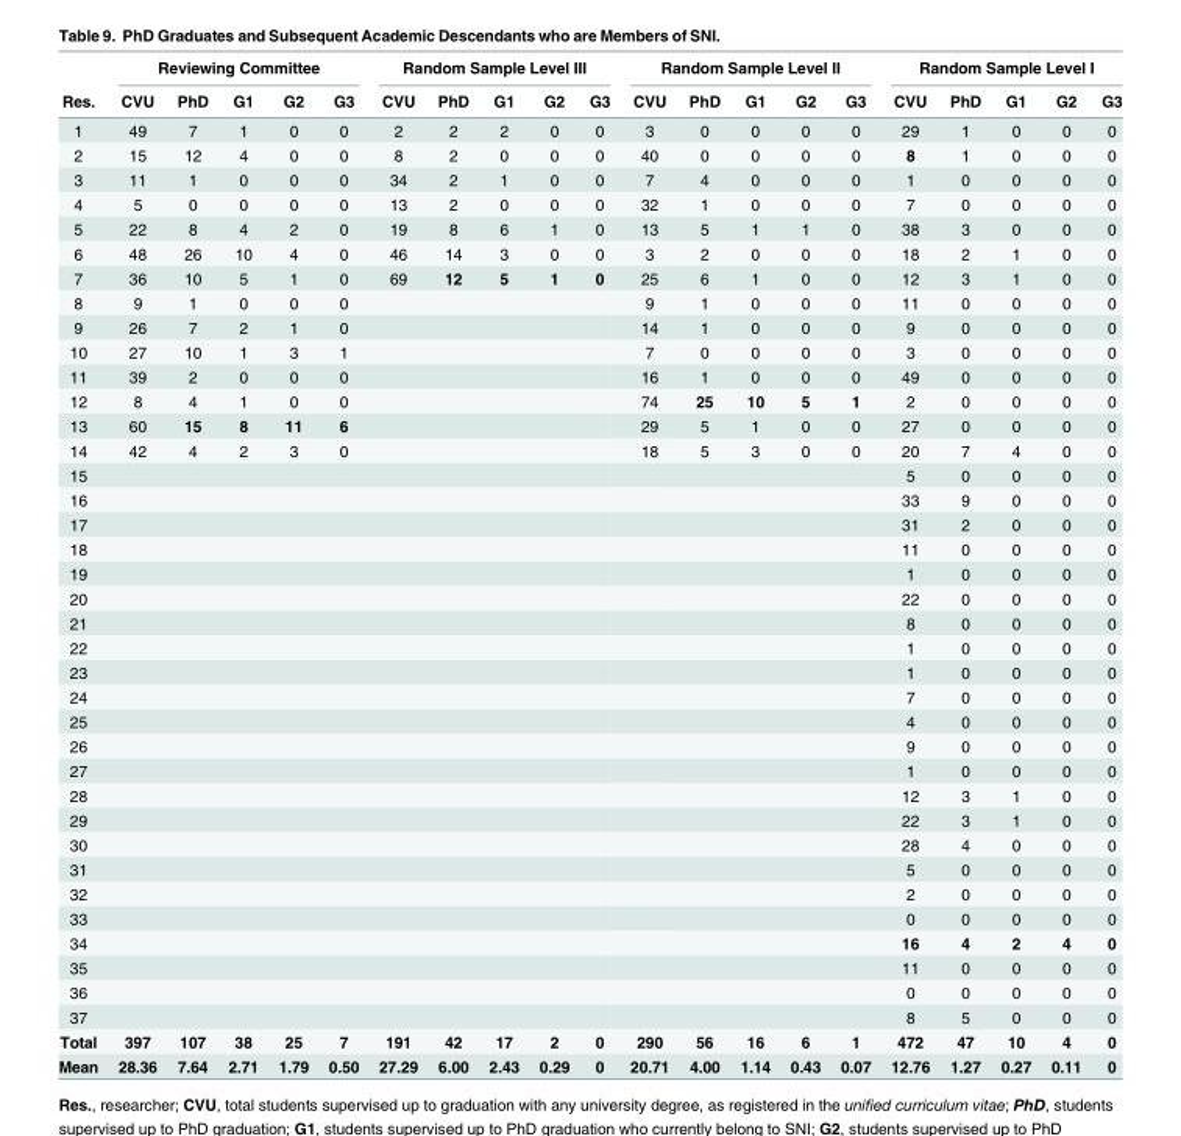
<table><thead><tr><td rowspan="2">Res.</td><td colspan="5">Reviewing Committee</td><td colspan="5">Random Sample Level III</td><td colspan="5">Random Sample Level II</td><td colspan="5">Random Sample Level I</td></tr><tr><td>CVU</td><td>PhD</td><td>G1</td><td>G2</td><td>G3</td><td>CVU</td><td>PhD</td><td>G1</td><td>G2</td><td>G3</td><td>CVU</td><td>PhD</td><td>G1</td><td>G2</td><td>G3</td><td>CVU</td><td>PhD</td><td>G1</td><td>G2</td><td>G3</td></tr></thead><tbody><tr><td>1</td><td>49</td><td>7</td><td>1</td><td>0</td><td>0</td><td>2</td><td>2</td><td>2</td><td>0</td><td>0</td><td>3</td><td>0</td><td>0</td><td>0</td><td>0</td><td>29</td><td>1</td><td>0</td><td>0</td><td>0</td></tr><tr><td>2</td><td>15</td><td>12</td><td>4</td><td>0</td><td>0</td><td>8</td><td>2</td><td>0</td><td>0</td><td>0</td><td>40</td><td>0</td><td>0</td><td>0</td><td>0</td><td>8</td><td>1</td><td>0</td><td>0</td><td>0</td></tr><tr><td>3</td><td>11</td><td>1</td><td>0</td><td>0</td><td>0</td><td>34</td><td>2</td><td>1</td><td>0</td><td>0</td><td>7</td><td>4</td><td>0</td><td>0</td><td>0</td><td>1</td><td>0</td><td>0</td><td>0</td><td>0</td></tr><tr><td>4</td><td>5</td><td>0</td><td>0</td><td>0</td><td>0</td><td>13</td><td>2</td><td>0</td><td>0</td><td>0</td><td>32</td><td>1</td><td>0</td><td>0</td><td>0</td><td>7</td><td>0</td><td>0</td><td>0</td><td>0</td></tr><tr><td>5</td><td>22</td><td>8</td><td>4</td><td>2</td><td>0</td><td>19</td><td>8</td><td>6</td><td>1</td><td>0</td><td>13</td><td>5</td><td>1</td><td>1</td><td>0</td><td>38</td><td>3</td><td>0</td><td>0</td><td>0</td></tr><tr><td>6</td><td>48</td><td>26</td><td>10</td><td>4</td><td>0</td><td>46</td><td>14</td><td>3</td><td>0</td><td>0</td><td>3</td><td>2</td><td>0</td><td>0</td><td>0</td><td>18</td><td>2</td><td>1</td><td>0</td><td>0</td></tr><tr><td>7</td><td>36</td><td>10</td><td>5</td><td>1</td><td>0</td><td>69</td><td>12</td><td>5</td><td>1</td><td>0</td><td>25</td><td>6</td><td>1</td><td>0</td><td>0</td><td>12</td><td>3</td><td>1</td><td>0</td><td>0</td></tr><tr><td>8</td><td>9</td><td>1</td><td>0</td><td>0</td><td>0</td><td></td><td></td><td></td><td></td><td></td><td>9</td><td>1</td><td>0</td><td>0</td><td>0</td><td>11</td><td>0</td><td>0</td><td>0</td><td>0</td></tr><tr><td>9</td><td>26</td><td>7</td><td>2</td><td>1</td><td>0</td><td></td><td></td><td></td><td></td><td></td><td>14</td><td>1</td><td>0</td><td>0</td><td>0</td><td>9</td><td>0</td><td>0</td><td>0</td><td>0</td></tr><tr><td>10</td><td>27</td><td>10</td><td>1</td><td>3</td><td>1</td><td></td><td></td><td></td><td></td><td></td><td>7</td><td>0</td><td>0</td><td>0</td><td>0</td><td>3</td><td>0</td><td>0</td><td>0</td><td>0</td></tr><tr><td>11</td><td>39</td><td>2</td><td>0</td><td>0</td><td>0</td><td></td><td></td><td></td><td></td><td></td><td>16</td><td>1</td><td>0</td><td>0</td><td>0</td><td>49</td><td>0</td><td>0</td><td>0</td><td>0</td></tr><tr><td>12</td><td>8</td><td>4</td><td>1</td><td>0</td><td>0</td><td></td><td></td><td></td><td></td><td></td><td>74</td><td>25</td><td>10</td><td>5</td><td>1</td><td>2</td><td>0</td><td>0</td><td>0</td><td>0</td></tr><tr><td>13</td><td>60</td><td>15</td><td>8</td><td>11</td><td>6</td><td></td><td></td><td></td><td></td><td></td><td>29</td><td>5</td><td>1</td><td>0</td><td>0</td><td>27</td><td>0</td><td>0</td><td>0</td><td>0</td></tr><tr><td>14</td><td>42</td><td>4</td><td>2</td><td>3</td><td>0</td><td></td><td></td><td></td><td></td><td></td><td>18</td><td>5</td><td>3</td><td>0</td><td>0</td><td>20</td><td>7</td><td>4</td><td>0</td><td>0</td></tr><tr><td>15</td><td></td><td></td><td></td><td></td><td></td><td></td><td></td><td></td><td></td><td></td><td></td><td></td><td></td><td></td><td></td><td>5</td><td>0</td><td>0</td><td>0</td><td>0</td></tr><tr><td>16</td><td></td><td></td><td></td><td></td><td></td><td></td><td></td><td></td><td></td><td></td><td></td><td></td><td></td><td></td><td></td><td>33</td><td>9</td><td>0</td><td>0</td><td>0</td></tr><tr><td>17</td><td></td><td></td><td></td><td></td><td></td><td></td><td></td><td></td><td></td><td></td><td></td><td></td><td></td><td></td><td></td><td>31</td><td>2</td><td>0</td><td>0</td><td>0</td></tr><tr><td>18</td><td></td><td></td><td></td><td></td><td></td><td></td><td></td><td></td><td></td><td></td><td></td><td></td><td></td><td></td><td></td><td>11</td><td>0</td><td>0</td><td>0</td><td>0</td></tr><tr><td>19</td><td></td><td></td><td></td><td></td><td></td><td></td><td></td><td></td><td></td><td></td><td></td><td></td><td></td><td></td><td></td><td>1</td><td>0</td><td>0</td><td>0</td><td>0</td></tr><tr><td>20</td><td></td><td></td><td></td><td></td><td></td><td></td><td></td><td></td><td></td><td></td><td></td><td></td><td></td><td></td><td></td><td>22</td><td>0</td><td>0</td><td>0</td><td>0</td></tr><tr><td>21</td><td></td><td></td><td></td><td></td><td></td><td></td><td></td><td></td><td></td><td></td><td></td><td></td><td></td><td></td><td></td><td>8</td><td>0</td><td>0</td><td>0</td><td>0</td></tr><tr><td>22</td><td></td><td></td><td></td><td></td><td></td><td></td><td></td><td></td><td></td><td></td><td></td><td></td><td></td><td></td><td></td><td>1</td><td>0</td><td>0</td><td>0</td><td>0</td></tr><tr><td>23</td><td></td><td></td><td></td><td></td><td></td><td></td><td></td><td></td><td></td><td></td><td></td><td></td><td></td><td></td><td></td><td>1</td><td>0</td><td>0</td><td>0</td><td>0</td></tr><tr><td>24</td><td></td><td></td><td></td><td></td><td></td><td></td><td></td><td></td><td></td><td></td><td></td><td></td><td></td><td></td><td></td><td>7</td><td>0</td><td>0</td><td>0</td><td>0</td></tr><tr><td>25</td><td></td><td></td><td></td><td></td><td></td><td></td><td></td><td></td><td></td><td></td><td></td><td></td><td></td><td></td><td></td><td>4</td><td>0</td><td>0</td><td>0</td><td>0</td></tr><tr><td>26</td><td></td><td></td><td></td><td></td><td></td><td></td><td></td><td></td><td></td><td></td><td></td><td></td><td></td><td></td><td></td><td>9</td><td>0</td><td>0</td><td>0</td><td>0</td></tr><tr><td>27</td><td></td><td></td><td></td><td></td><td></td><td></td><td></td><td></td><td></td><td></td><td></td><td></td><td></td><td></td><td></td><td>1</td><td>0</td><td>0</td><td>0</td><td>0</td></tr><tr><td>28</td><td></td><td></td><td></td><td></td><td></td><td></td><td></td><td></td><td></td><td></td><td></td><td></td><td></td><td></td><td></td><td>12</td><td>3</td><td>1</td><td>0</td><td>0</td></tr><tr><td>29</td><td></td><td></td><td></td><td></td><td></td><td></td><td></td><td></td><td></td><td></td><td></td><td></td><td></td><td></td><td></td><td>22</td><td>3</td><td>1</td><td>0</td><td>0</td></tr><tr><td>30</td><td></td><td></td><td></td><td></td><td></td><td></td><td></td><td></td><td></td><td></td><td></td><td></td><td></td><td></td><td></td><td>28</td><td>4</td><td>0</td><td>0</td><td>0</td></tr><tr><td>31</td><td></td><td></td><td></td><td></td><td></td><td></td><td></td><td></td><td></td><td></td><td></td><td></td><td></td><td></td><td></td><td>5</td><td>0</td><td>0</td><td>0</td><td>0</td></tr><tr><td>32</td><td></td><td></td><td></td><td></td><td></td><td></td><td></td><td></td><td></td><td></td><td></td><td></td><td></td><td></td><td></td><td>2</td><td>0</td><td>0</td><td>0</td><td>0</td></tr><tr><td>33</td><td></td><td></td><td></td><td></td><td></td><td></td><td></td><td></td><td></td><td></td><td></td><td></td><td></td><td></td><td></td><td>0</td><td>0</td><td>0</td><td>0</td><td>0</td></tr><tr><td>34</td><td></td><td></td><td></td><td></td><td></td><td></td><td></td><td></td><td></td><td></td><td></td><td></td><td></td><td></td><td></td><td>16</td><td>4</td><td>2</td><td>4</td><td>0</td></tr><tr><td>35</td><td></td><td></td><td></td><td></td><td></td><td></td><td></td><td></td><td></td><td></td><td></td><td></td><td></td><td></td><td></td><td>11</td><td>0</td><td>0</td><td>0</td><td>0</td></tr><tr><td>36</td><td></td><td></td><td></td><td></td><td></td><td></td><td></td><td></td><td></td><td></td><td></td><td></td><td></td><td></td><td></td><td>0</td><td>0</td><td>0</td><td>0</td><td>0</td></tr><tr><td>37</td><td></td><td></td><td></td><td></td><td></td><td></td><td></td><td></td><td></td><td></td><td></td><td></td><td></td><td></td><td></td><td>8</td><td>5</td><td>0</td><td>0</td><td>0</td></tr><tr><td>Total</td><td>397</td><td>107</td><td>38</td><td>25</td><td>7</td><td>191</td><td>42</td><td>17</td><td>2</td><td>0</td><td>290</td><td>56</td><td>16</td><td>6</td><td>1</td><td>472</td><td>47</td><td>10</td><td>4</td><td>0</td></tr><tr><td>Mean</td><td>28.36</td><td>7.64</td><td>2.71</td><td>1.79</td><td>0.50</td><td>27.29</td><td>6.00</td><td>2.43</td><td>0.29</td><td>0</td><td>20.71</td><td>4.00</td><td>1.14</td><td>0.43</td><td>0.07</td><td>12.76</td><td>1.27</td><td>0.27</td><td>0.11</td><td>0</td></tr></tbody></table>